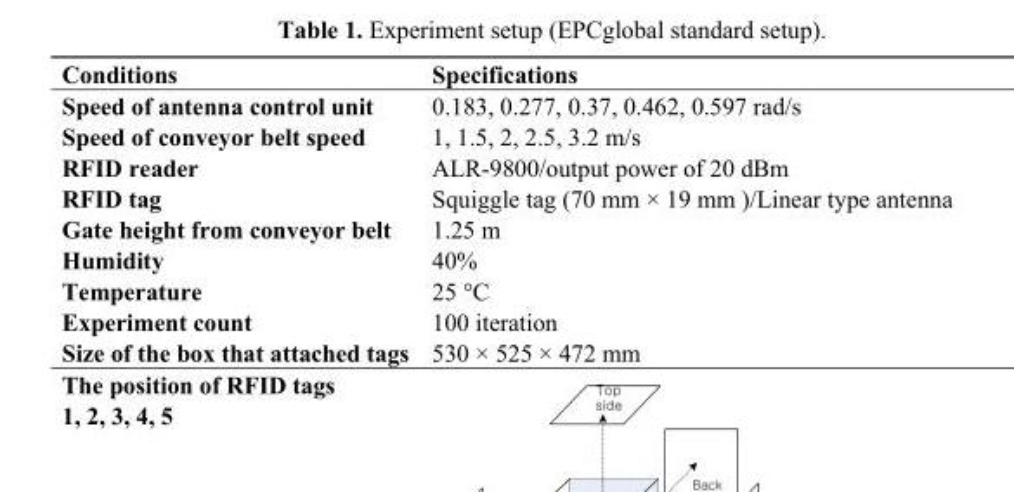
<table><thead><tr><td>Conditions</td><td>Specifications</td></tr></thead><tbody><tr><td>Speed of antenna control unit</td><td>0.183, 0.277, 0.37, 0.462, 0.597 rad/s</td></tr><tr><td>Speed of conveyor belt speed</td><td>1, 1.5, 2, 2.5, 3.2 m/s</td></tr><tr><td>RFID reader</td><td>ALR-9800/output power of 20 dBm</td></tr><tr><td>RFID tag</td><td>Squiggle tag (70 mm × 19 mm )/Linear type antenna</td></tr><tr><td>Gate height from conveyor belt</td><td>1.25 m</td></tr><tr><td>Humidity</td><td>40%</td></tr><tr><td>Temperature</td><td>25 °C</td></tr><tr><td>Experiment count</td><td>100 iteration</td></tr><tr><td>Size of the box that attached tags</td><td>530 × 525 × 472 mm</td></tr><tr><td>The position of RFID tags 1, 2, 3, 4, 5</td><td></td></tr></tbody></table>